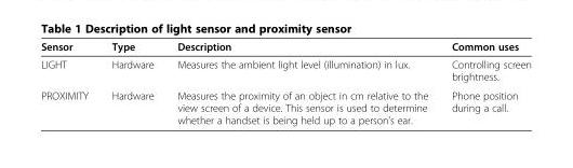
<table><thead><tr><td>Sensor</td><td>Type</td><td>Description</td><td>Common uses</td></tr></thead><tbody><tr><td>LIGHT</td><td>Hardware</td><td>Measures the ambient light level (illumination) in lux.</td><td>Controlling screen brightness.</td></tr><tr><td>PROXIMITY</td><td>Hardware</td><td>Measures the proximity of an object in cm relative to the view screen of a device. This sensor is used to determine whether a handset is being held up to a person’s ear.</td><td>Phone position during a call.</td></tr></tbody></table>